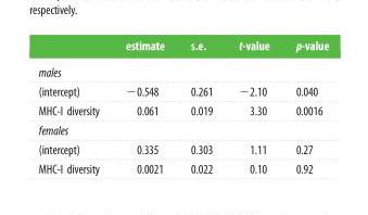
<table><thead><tr><td></td><td>estimate</td><td>s.e.</td><td>t-value</td><td>p-value</td></tr></thead><tbody><tr><td colspan="5">males</td></tr><tr><td>(intercept)</td><td>−0.548</td><td>0.261</td><td>−2.10</td><td>0.040</td></tr><tr><td>MHC-I diversity</td><td>0.061</td><td>0.019</td><td>3.30</td><td>0.0016</td></tr><tr><td colspan="5">females</td></tr><tr><td>(intercept)</td><td>0.335</td><td>0.303</td><td>1.11</td><td>0.27</td></tr><tr><td>MHC-I diversity</td><td>0.0021</td><td>0.022</td><td>0.10</td><td>0.92</td></tr></tbody></table>